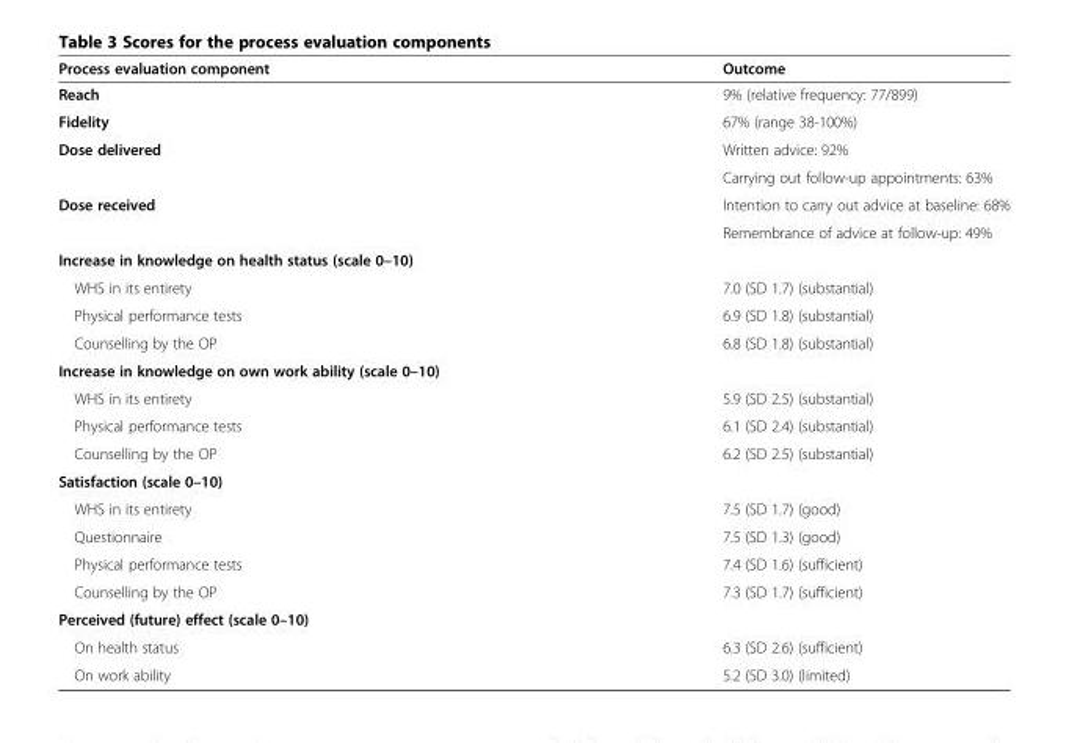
<table><thead><tr><td>Process evaluation component</td><td>Outcome</td></tr></thead><tbody><tr><td>Reach</td><td>9% (relative frequency: 77/899)</td></tr><tr><td>Fidelity</td><td>67% (range 38-100%)</td></tr><tr><td rowspan="2">Dose delivered</td><td>Written advice: 92%</td></tr><tr><td>Carrying out follow-up appointments: 63%</td></tr><tr><td rowspan="2">Dose received</td><td>Intention to carry out advice at baseline: 68%</td></tr><tr><td>Remembrance of advice at follow-up: 49%</td></tr><tr><td colspan="2">Increase in knowledge on health status (scale 0–10)</td></tr><tr><td>WHS in its entirety</td><td>7.0 (SD 1.7) (substantial)</td></tr><tr><td>Physical performance tests</td><td>6.9 (SD 1.8) (substantial)</td></tr><tr><td>Counselling by the OP</td><td>6.8 (SD 1.8) (substantial)</td></tr><tr><td colspan="2">Increase in knowledge on own work ability (scale 0–10)</td></tr><tr><td>WHS in its entirety</td><td>5.9 (SD 2.5) (substantial)</td></tr><tr><td>Physical performance tests</td><td>6.1 (SD 2.4) (substantial)</td></tr><tr><td>Counselling by the OP</td><td>6.2 (SD 2.5) (substantial)</td></tr><tr><td colspan="2">Satisfaction (scale 0–10)</td></tr><tr><td>WHS in its entirety</td><td>7.5 (SD 1.7) (good)</td></tr><tr><td>Questionnaire</td><td>7.5 (SD 1.3) (good)</td></tr><tr><td>Physical performance tests</td><td>7.4 (SD 1.6) (sufficient)</td></tr><tr><td>Counselling by the OP</td><td>7.3 (SD 1.7) (sufficient)</td></tr><tr><td colspan="2">Perceived (future) effect (scale 0–10)</td></tr><tr><td>On health status</td><td>6.3 (SD 2.6) (sufficient)</td></tr><tr><td>On work ability</td><td>5.2 (SD 3.0) (limited)</td></tr></tbody></table>